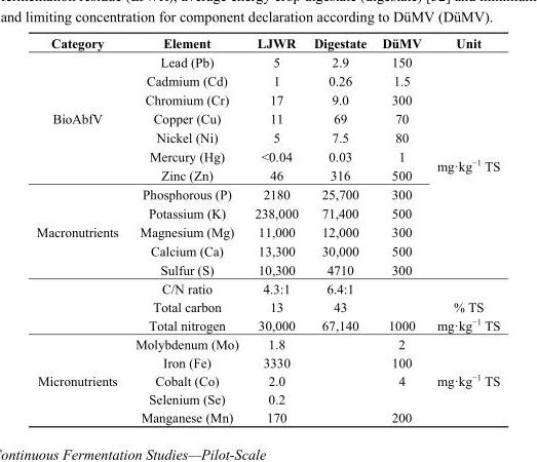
<table><thead><tr><td>Category</td><td>Element</td><td>LJWR</td><td>Digestate</td><td>DüMV</td><td>Unit</td></tr></thead><tbody><tr><td rowspan="7">BioAbfV</td><td>Lead (Pb)</td><td>5</td><td>2.9</td><td>150</td><td rowspan="12">mg·kg<sup>−1</sup> TS</td></tr><tr><td>Cadmium (Cd)</td><td>1</td><td>0.26</td><td>1.5</td></tr><tr><td>Chromium (Cr)</td><td>17</td><td>9.0</td><td>300</td></tr><tr><td>Copper (Cu)</td><td>11</td><td>69</td><td>70</td></tr><tr><td>Nickel (Ni)</td><td>5</td><td>7.5</td><td>80</td></tr><tr><td>Mercury (Hg)</td><td>&lt;0.04</td><td>0.03</td><td>1</td></tr><tr><td>Zinc (Zn)</td><td>46</td><td>316</td><td>500</td></tr><tr><td rowspan="8">Macronutrients</td><td>Phosphorous (P)</td><td>2180</td><td>25,700</td><td>300</td></tr><tr><td>Potassium (K)</td><td>238,000</td><td>71,400</td><td>500</td></tr><tr><td>Magnesium (Mg)</td><td>11,000</td><td>12,000</td><td>300</td></tr><tr><td>Calcium (Ca)</td><td>13,300</td><td>30,000</td><td>500</td></tr><tr><td>Sulfur (S)</td><td>10,300</td><td>4710</td><td>300</td></tr><tr><td>C/N ratio</td><td>4.3:1</td><td>6.4:1</td><td></td><td></td></tr><tr><td>Total carbon</td><td>13</td><td>43</td><td></td><td>% TS</td></tr><tr><td>Total nitrogen</td><td>30,000</td><td>67,140</td><td>1000</td><td>mg·kg<sup>−1</sup> TS</td></tr><tr><td rowspan="5">Micronutrients</td><td>Molybdenum (Mo)</td><td>1.8</td><td></td><td>2</td><td rowspan="5">mg·kg<sup>−1</sup> TS</td></tr><tr><td>Iron (Fe)</td><td>3330</td><td></td><td>100</td></tr><tr><td>Cobalt (Co)</td><td>2.0</td><td></td><td>4</td></tr><tr><td>Selenium (Se)</td><td>0.2</td><td></td><td></td></tr><tr><td>Manganese (Mn)</td><td>170</td><td></td><td>200</td></tr></tbody></table>